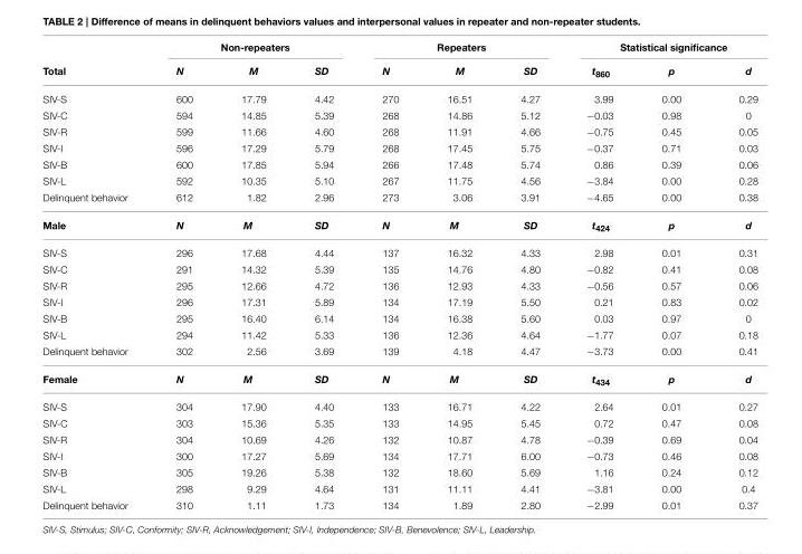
<table><thead><tr><td rowspan="2">Total</td><td colspan="3">Non-repeaters</td><td colspan="3">Repeaters</td><td colspan="3">Statistical significance</td></tr><tr><td>N</td><td>M</td><td>SD</td><td>N</td><td>M</td><td>SD</td><td>t<sub>860</sub></td><td>p</td><td>d</td></tr></thead><tbody><tr><td>SIV-S</td><td>600</td><td>17.79</td><td>4.42</td><td>270</td><td>16.51</td><td>4.27</td><td>3.99</td><td>0.00</td><td>0.29</td></tr><tr><td>SIV-C</td><td>594</td><td>14.85</td><td>5.39</td><td>268</td><td>14.86</td><td>5.12</td><td>−0.03</td><td>0.98</td><td>0</td></tr><tr><td>SIV-R</td><td>599</td><td>11.66</td><td>4.60</td><td>268</td><td>11.91</td><td>4.66</td><td>−0.75</td><td>0.45</td><td>0.05</td></tr><tr><td>SIV-I</td><td>596</td><td>17.29</td><td>5.79</td><td>268</td><td>17.45</td><td>5.75</td><td>−0.37</td><td>0.71</td><td>0.03</td></tr><tr><td>SIV-B</td><td>600</td><td>17.85</td><td>5.94</td><td>266</td><td>17.48</td><td>5.74</td><td>0.86</td><td>0.39</td><td>0.06</td></tr><tr><td>SIV-L</td><td>592</td><td>10.35</td><td>5.10</td><td>267</td><td>11.75</td><td>4.56</td><td>−3.84</td><td>0.00</td><td>0.28</td></tr><tr><td>Delinquent behavior</td><td>612</td><td>1.82</td><td>2.96</td><td>273</td><td>3.06</td><td>3.91</td><td>−4.65</td><td>0.00</td><td>0.38</td></tr><tr><td>Male</td><td>N</td><td>M</td><td>SD</td><td>N</td><td>M</td><td>SD</td><td>t<sub>424</sub></td><td>p</td><td>d</td></tr><tr><td>SIV-S</td><td>296</td><td>17.68</td><td>4.44</td><td>137</td><td>16.32</td><td>4.33</td><td>2.98</td><td>0.01</td><td>0.31</td></tr><tr><td>SIV-C</td><td>291</td><td>14.32</td><td>5.39</td><td>135</td><td>14.76</td><td>4.80</td><td>−0.82</td><td>0.41</td><td>0.08</td></tr><tr><td>SIV-R</td><td>295</td><td>12.66</td><td>4.72</td><td>136</td><td>12.93</td><td>4.33</td><td>−0.56</td><td>0.57</td><td>0.06</td></tr><tr><td>SIV-I</td><td>296</td><td>17.31</td><td>5.89</td><td>134</td><td>17.19</td><td>5.50</td><td>0.21</td><td>0.83</td><td>0.02</td></tr><tr><td>SIV-B</td><td>295</td><td>16.40</td><td>6.14</td><td>134</td><td>16.38</td><td>5.60</td><td>0.03</td><td>0.97</td><td>0</td></tr><tr><td>SIV-L</td><td>294</td><td>11.42</td><td>5.33</td><td>136</td><td>12.36</td><td>4.64</td><td>−1.77</td><td>0.07</td><td>0.18</td></tr><tr><td>Delinquent behavior</td><td>302</td><td>2.56</td><td>3.69</td><td>139</td><td>4.18</td><td>4.47</td><td>−3.73</td><td>0.00</td><td>0.41</td></tr><tr><td>Female</td><td>N</td><td>M</td><td>SD</td><td>N</td><td>M</td><td>SD</td><td>t<sub>434</sub></td><td>p</td><td>d</td></tr><tr><td>SIV-S</td><td>304</td><td>17.90</td><td>4.40</td><td>133</td><td>16.71</td><td>4.22</td><td>2.64</td><td>0.01</td><td>0.27</td></tr><tr><td>SIV-C</td><td>303</td><td>15.36</td><td>5.35</td><td>133</td><td>14.95</td><td>5.45</td><td>0.72</td><td>0.47</td><td>0.08</td></tr><tr><td>SIV-R</td><td>304</td><td>10.69</td><td>4.26</td><td>132</td><td>10.87</td><td>4.78</td><td>−0.39</td><td>0.69</td><td>0.04</td></tr><tr><td>SIV-I</td><td>300</td><td>17.27</td><td>5.69</td><td>134</td><td>17.71</td><td>6.00</td><td>−0.73</td><td>0.46</td><td>0.08</td></tr><tr><td>SIV-B</td><td>305</td><td>19.26</td><td>5.38</td><td>132</td><td>18.60</td><td>5.69</td><td>1.16</td><td>0.24</td><td>0.12</td></tr><tr><td>SIV-L</td><td>298</td><td>9.29</td><td>4.64</td><td>131</td><td>11.11</td><td>4.41</td><td>−3.81</td><td>0.00</td><td>0.4</td></tr><tr><td>Delinquent behavior</td><td>310</td><td>1.11</td><td>1.73</td><td>134</td><td>1.89</td><td>2.80</td><td>−2.99</td><td>0.01</td><td>0.37</td></tr></tbody></table>